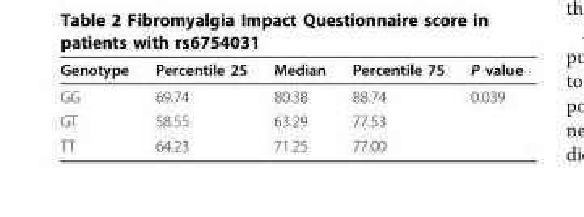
<table><thead><tr><td>Genotype</td><td>Percentile 25</td><td>Median</td><td>Percentile 75</td><td>P value</td></tr></thead><tbody><tr><td>GG</td><td>69.74</td><td>80.38</td><td>88.74</td><td>0.039</td></tr><tr><td>GT</td><td>58.55</td><td>63.29</td><td>77.53</td><td></td></tr><tr><td>TT</td><td>64.23</td><td>71.25</td><td>77.00</td><td></td></tr></tbody></table>